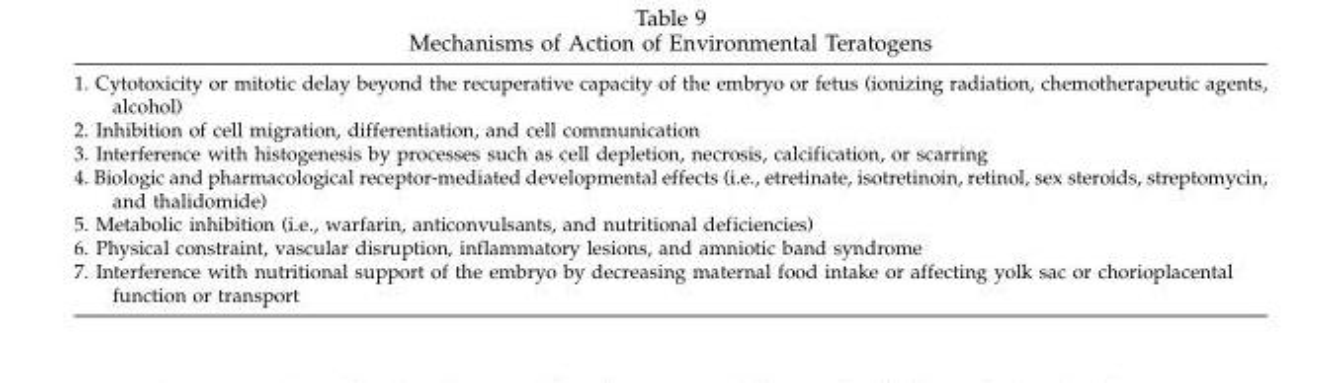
<table><tbody><tr><td>1.</td><td>Cytotoxicity or mitotic delay beyond the recuperative capacity of the embryo or fetus (ionizing radiation, chemotherapeutic agents, alcohol)</td></tr><tr><td>2.</td><td>Inhibition of cell migration, differentiation, and cell communication</td></tr><tr><td>3.</td><td>Interference with histogenesis by processes such as cell depletion, necrosis, calcification, or scarring</td></tr><tr><td>4.</td><td>Biologic and pharmacological receptor-mediated developmental effects (i.e., etretinate, isotretinoin, retinol, sex steroids, streptomycin, and thalidomide)</td></tr><tr><td>5.</td><td>Metabolic inhibition (i.e., warfarin, anticonvulsants, and nutritional deficiencies)</td></tr><tr><td>6.</td><td>Physical constraint, vascular disruption, inflammatory lesions, and amniotic band syndrome</td></tr><tr><td>7.</td><td>Interference with nutritional support of the embryo by decreasing maternal food intake or affecting yolk sac or chorioplacental function or transport</td></tr></tbody></table>